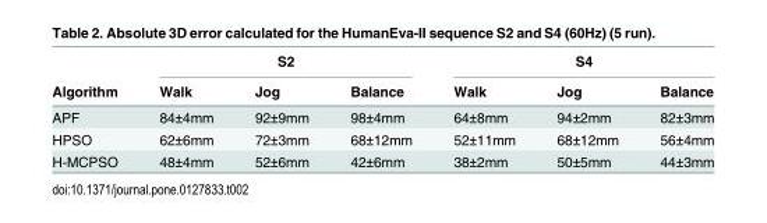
<table><thead><tr><td rowspan="2">Algorithm</td><td colspan="3">S2</td><td colspan="3">S4</td></tr><tr><td>Walk</td><td>Jog</td><td>Balance</td><td>Walk</td><td>Jog</td><td>Balance</td></tr></thead><tbody><tr><td>APF</td><td>84±4mm</td><td>92±9mm</td><td>98±4mm</td><td>64±8mm</td><td>94±2mm</td><td>82±3mm</td></tr><tr><td>HPSO</td><td>62±6mm</td><td>72±3mm</td><td>68±12mm</td><td>52±11mm</td><td>68±12mm</td><td>56±4mm</td></tr><tr><td>H-MCPSO</td><td>48±4mm</td><td>52±6mm</td><td>42±6mm</td><td>38±2mm</td><td>50±5mm</td><td>44±3mm</td></tr></tbody></table>